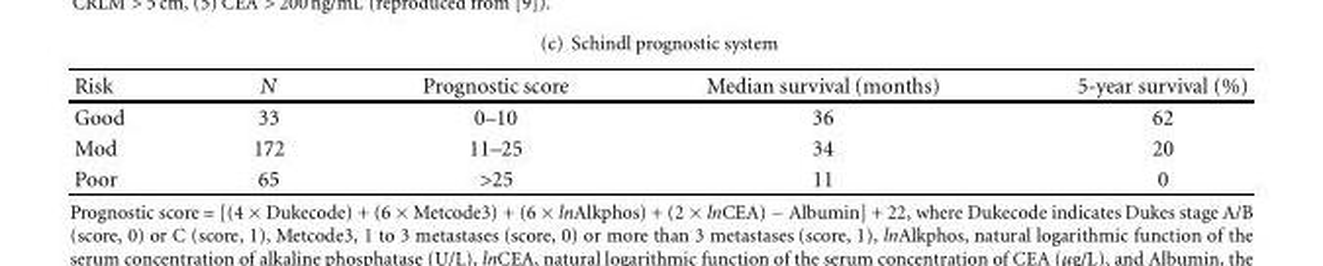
<table><thead><tr><td>Risk</td><td>N</td><td>Prognostic score</td><td>Median survival (months)</td><td>5-year survival (%)</td></tr></thead><tbody><tr><td>Good</td><td>33</td><td>0–10</td><td>36</td><td>62</td></tr><tr><td>Mod</td><td>172</td><td>11–25</td><td>34</td><td>20</td></tr><tr><td>Poor</td><td>65</td><td>&gt;25</td><td>11</td><td>0</td></tr></tbody></table>